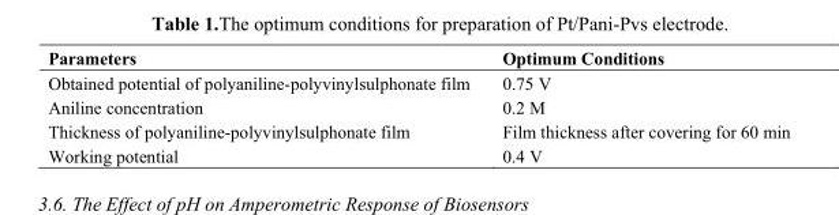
<table><thead><tr><td>Parameters</td><td>Optimum Conditions</td></tr></thead><tbody><tr><td>Obtained potential of polyaniline-polyvinylsulphonate film</td><td>0.75 V</td></tr><tr><td>Aniline concentration</td><td>0.2 M</td></tr><tr><td>Thickness of polyaniline-polyvinylsulphonate film</td><td>Film thickness after covering for 60 min</td></tr><tr><td>Working potential</td><td>0.4 V</td></tr></tbody></table>